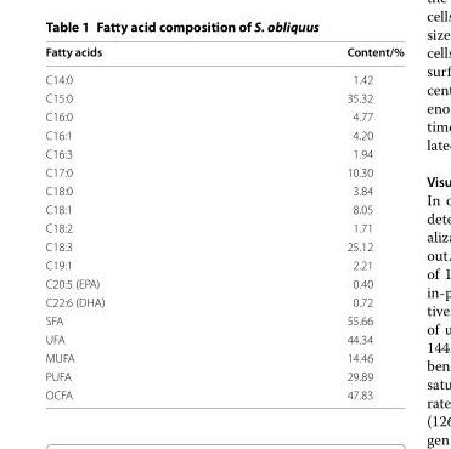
<table><thead><tr><td>Fatty acids</td><td>Content/%</td></tr></thead><tbody><tr><td>C14:0</td><td>1.42</td></tr><tr><td>C15:0</td><td>35.32</td></tr><tr><td>C16:0</td><td>4.77</td></tr><tr><td>C16:1</td><td>4.20</td></tr><tr><td>C16:3</td><td>1.94</td></tr><tr><td>C17:0</td><td>10.30</td></tr><tr><td>C18:0</td><td>3.84</td></tr><tr><td>C18:1</td><td>8.05</td></tr><tr><td>C18:2</td><td>1.71</td></tr><tr><td>C18:3</td><td>25.12</td></tr><tr><td>C19:1</td><td>2.21</td></tr><tr><td>C20:5 (EPA)</td><td>0.40</td></tr><tr><td>C22:6 (DHA)</td><td>0.72</td></tr><tr><td>SFA</td><td>55.66</td></tr><tr><td>UFA</td><td>44.34</td></tr><tr><td>MUFA</td><td>14.46</td></tr><tr><td>PUFA</td><td>29.89</td></tr><tr><td>OCFA</td><td>47.83</td></tr></tbody></table>